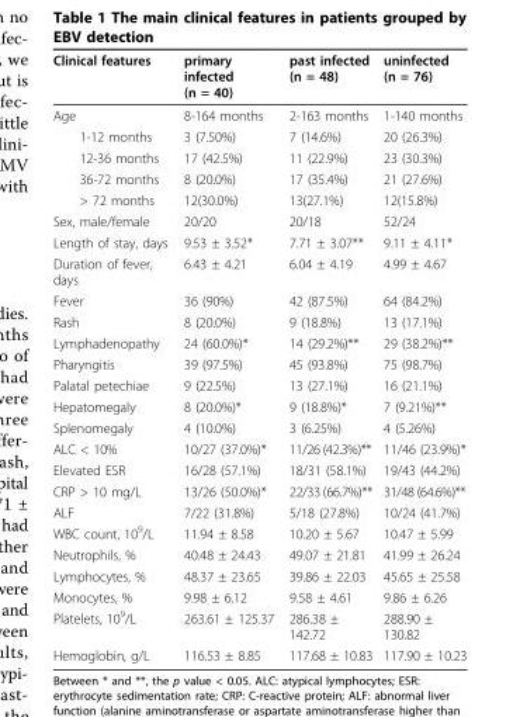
<table><thead><tr><td>Clinical features</td><td>primary infected (n = 40)</td><td>past infected (n = 48)</td><td>uninfected (n = 76)</td></tr></thead><tbody><tr><td>Age</td><td>8-164 months</td><td>2-163 months</td><td>1-140 months</td></tr><tr><td>1-12 months</td><td>3 (7.50%)</td><td>7 (14.6%)</td><td>20 (26.3%)</td></tr><tr><td>12-36 months</td><td>17 (42.5%)</td><td>11 (22.9%)</td><td>23 (30.3%)</td></tr><tr><td>36-72 months</td><td>8 (20.0%)</td><td>17 (35.4%)</td><td>21 (27.6%)</td></tr><tr><td>&gt; 72 months</td><td>12(30.0%)</td><td>13(27.1%)</td><td>12(15.8%)</td></tr><tr><td>Sex, male/female</td><td>20/20</td><td>20/18</td><td>52/24</td></tr><tr><td>Length of stay, days</td><td>9.53 ± 3.52*</td><td>7.71 ± 3.07**</td><td>9.11 ± 4.11*</td></tr><tr><td>Duration of fever, days</td><td>6.43 ± 4.21</td><td>6.04 ± 4.19</td><td>4.99 ± 4.67</td></tr><tr><td>Fever</td><td>36 (90%)</td><td>42 (87.5%)</td><td>64 (84.2%)</td></tr><tr><td>Rash</td><td>8 (20.0%)</td><td>9 (18.8%)</td><td>13 (17.1%)</td></tr><tr><td>Lymphadenopathy</td><td>24 (60.0%)*</td><td>14 (29.2%)**</td><td>29 (38.2%)**</td></tr><tr><td>Pharyngitis</td><td>39 (97.5%)</td><td>45 (93.8%)</td><td>75 (98.7%)</td></tr><tr><td>Palatal petechiae</td><td>9 (22.5%)</td><td>13 (27.1%)</td><td>16 (21.1%)</td></tr><tr><td>Hepatomegaly</td><td>8 (20.0%)*</td><td>9 (18.8%)*</td><td>7 (9.21%)**</td></tr><tr><td>Splenomegaly</td><td>4 (10.0%)</td><td>3 (6.25%)</td><td>4 (5.26%)</td></tr><tr><td>ALC &lt; 10%</td><td>10/27 (37.0%)*</td><td>11/26 (42.3%)**</td><td>11/46 (23.9%)*</td></tr><tr><td>Elevated ESR</td><td>16/28 (57.1%)</td><td>18/31 (58.1%)</td><td>19/43 (44.2%)</td></tr><tr><td>CRP &gt; 10 mg/L</td><td>13/26 (50.0%)*</td><td>22/33 (66.7%)**</td><td>31/48 (64.6%)**</td></tr><tr><td>ALF</td><td>7/22 (31.8%)</td><td>5/18 (27.8%)</td><td>10/24 (41.7%)</td></tr><tr><td>WBC count, 10<sup>9</sup>/L</td><td>11.94 ± 8.58</td><td>10.20 ± 5.67</td><td>10.47 ± 5.99</td></tr><tr><td>Neutrophils, %</td><td>40.48 ± 24.43</td><td>49.07 ± 21.81</td><td>41.99 ± 26.24</td></tr><tr><td>Lymphocytes, %</td><td>48.37 ± 23.65</td><td>39.86 ± 22.03</td><td>45.65 ± 25.58</td></tr><tr><td>Monocytes, %</td><td>9.98 ± 6.12</td><td>9.58 ± 4.61</td><td>9.86 ± 6.26</td></tr><tr><td>Platelets, 10<sup>9</sup>/L</td><td>263.61 ± 125.37</td><td>286.38 ± 142.72</td><td>288.90 ± 130.82</td></tr><tr><td>Hemoglobin, g/L</td><td>116.53 ± 8.85</td><td>117.68 ± 10.83</td><td>117.90 ± 10.23</td></tr></tbody></table>